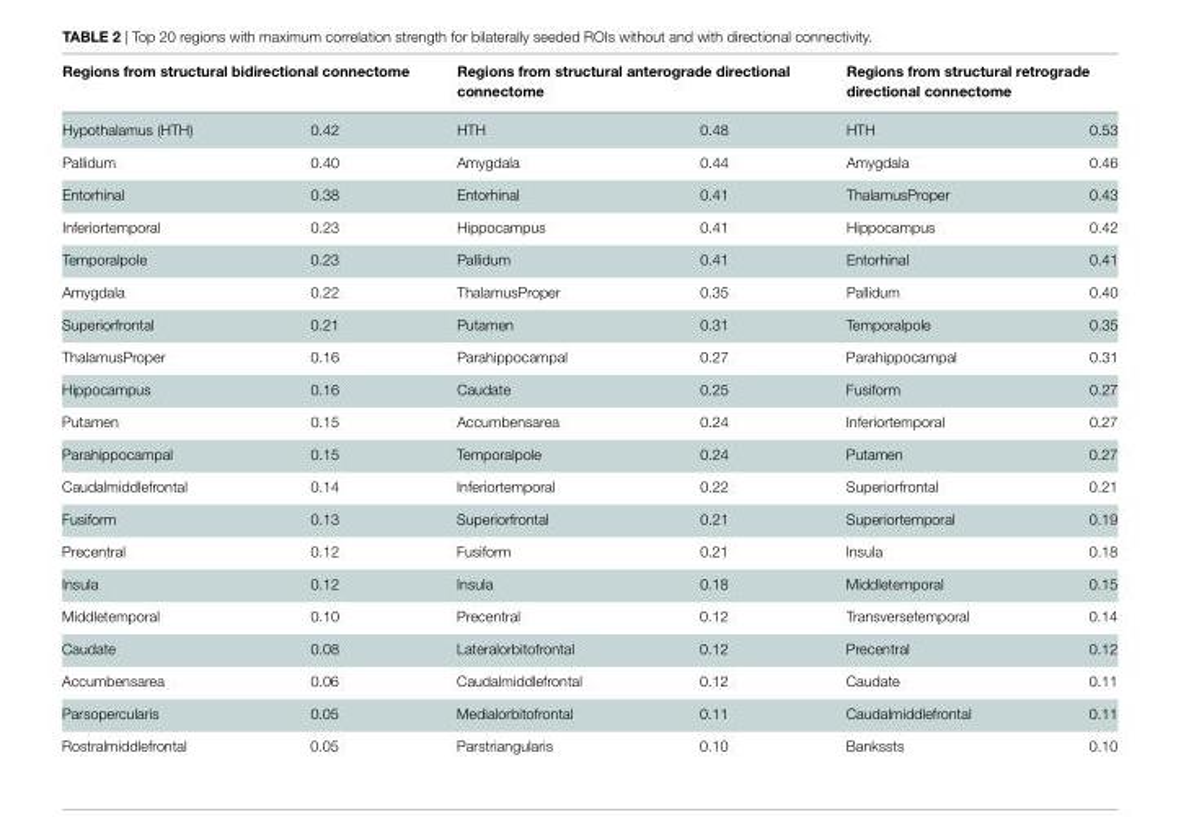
<table><thead><tr><td colspan="2">regions from structural bidirectional connectome</td><td colspan="2">regions from structural anterograde directional connectome</td><td colspan="2">regions from structural retrograde directional connectome</td></tr><tr><td>Hypothalamus (HTH)</td><td>0.42</td><td>HTH</td><td>0.48</td><td>HTH</td><td>0.53</td></tr></thead><tbody><tr><td>Pallidum</td><td>0.40</td><td>Amygdala</td><td>0.44</td><td>Amygdala</td><td>0.46</td></tr><tr><td>Entorhinal</td><td>0.38</td><td>Entorhinal</td><td>0.41</td><td>ThalamusProper</td><td>0.43</td></tr><tr><td>Inferiortemporal</td><td>0.23</td><td>Hippocampus</td><td>0.41</td><td>Hippocampus</td><td>0.42</td></tr><tr><td>Temporalpole</td><td>0.23</td><td>Pallidum</td><td>0.41</td><td>Entorhinal</td><td>0.41</td></tr><tr><td>Amygdala</td><td>0.22</td><td>ThalamusProper</td><td>0.35</td><td>Pallidum</td><td>0.40</td></tr><tr><td>Superiorfrontal</td><td>0.21</td><td>Putamen</td><td>0.31</td><td>Temporalpole</td><td>0.35</td></tr><tr><td>ThalamusProper</td><td>0.16</td><td>Parahippocampal</td><td>0.27</td><td>Parahippocampal</td><td>0.31</td></tr><tr><td>Hippocampus</td><td>0.16</td><td>Caudate</td><td>0.25</td><td>Fusiform</td><td>0.27</td></tr><tr><td>Putamen</td><td>0.15</td><td>Accumbensarea</td><td>0.24</td><td>Inferiortemporal</td><td>0.27</td></tr><tr><td>Parahippocampal</td><td>0.15</td><td>Temporalpole</td><td>0.24</td><td>Putamen</td><td>0.27</td></tr><tr><td>Caudalmiddlefrontal</td><td>0.14</td><td>Inferiortemporal</td><td>0.22</td><td>Superiorfrontal</td><td>0.21</td></tr><tr><td>Fusiform</td><td>0.13</td><td>Superiorfrontal</td><td>0.21</td><td>Superiortemporal</td><td>0.19</td></tr><tr><td>Precentral</td><td>0.12</td><td>Fusiform</td><td>0.21</td><td>Insula</td><td>0.18</td></tr><tr><td>Insula</td><td>0.12</td><td>Insula</td><td>0.18</td><td>Middletemporal</td><td>0.15</td></tr><tr><td>Middletemporal</td><td>0.10</td><td>Precentral</td><td>0.12</td><td>Transversetemporal</td><td>0.14</td></tr><tr><td>Caudate</td><td>0.08</td><td>Lateralorbitofrontal</td><td>0.12</td><td>Precentral</td><td>0.12</td></tr><tr><td>Accumbensarea</td><td>0.06</td><td>Caudalmiddlefrontal</td><td>0.12</td><td>Caudate</td><td>0.11</td></tr><tr><td>Parsopercularis</td><td>0.05</td><td>Medialorbitofrontal</td><td>0.11</td><td>Caudalmiddlefrontal</td><td>0.11</td></tr><tr><td>Rostralmiddlefrontal</td><td>0.05</td><td>Parstriangularis</td><td>0.10</td><td>Bankssts</td><td>0.10</td></tr></tbody></table>